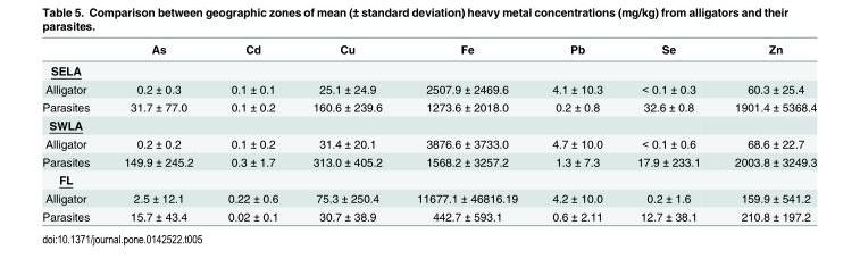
<table><thead><tr><td></td><td>As</td><td>Cd</td><td>Cu</td><td>Fe</td><td>Pb</td><td>Se</td><td>Zn</td></tr></thead><tbody><tr><td colspan="8">SELA</td></tr><tr><td>Alligator</td><td>0.2 ± 0.3</td><td>0.1 ± 0.1</td><td>25.1 ± 24.9</td><td>2507.9 ± 2469.6</td><td>4.1 ± 10.3</td><td>&lt; 0.1 ± 0.3</td><td>60.3 ± 25.4</td></tr><tr><td>Parasites</td><td>31.7 ± 77.0</td><td>0.1 ± 0.2</td><td>160.6 ± 239.6</td><td>1273.6 ± 2018.0</td><td>0.2 ± 0.8</td><td>32.6 ± 0.8</td><td>1901.4 ± 5368.4</td></tr><tr><td colspan="8">SWLA</td></tr><tr><td>Alligator</td><td>0.2 ± 0.2</td><td>0.1 ± 0.2</td><td>31.4 ± 20.1</td><td>3876.6 ± 3733.0</td><td>4.7 ± 10.0</td><td>&lt; 0.1 ± 0.6</td><td>68.6 ± 22.7</td></tr><tr><td>Parasites</td><td>149.9 ± 245.2</td><td>0.3 ± 1.7</td><td>313.0 ± 405.2</td><td>1568.2 ± 3257.2</td><td>1.3 ± 7.3</td><td>17.9 ± 233.1</td><td>2003.8 ± 3249.3</td></tr><tr><td colspan="8">FL</td></tr><tr><td>Alligator</td><td>2.5 ± 12.1</td><td>0.22 ± 0.6</td><td>75.3 ± 250.4</td><td>11677.1 ± 46816.19</td><td>4.2 ± 10.0</td><td>0.2 ± 1.6</td><td>159.9 ± 541.2</td></tr><tr><td>Parasites</td><td>15.7 ± 43.4</td><td>0.02 ± 0.1</td><td>30.7 ± 38.9</td><td>442.7 ± 593.1</td><td>0.6 ± 2.11</td><td>12.7 ± 38.1</td><td>210.8 ± 197.2</td></tr></tbody></table>